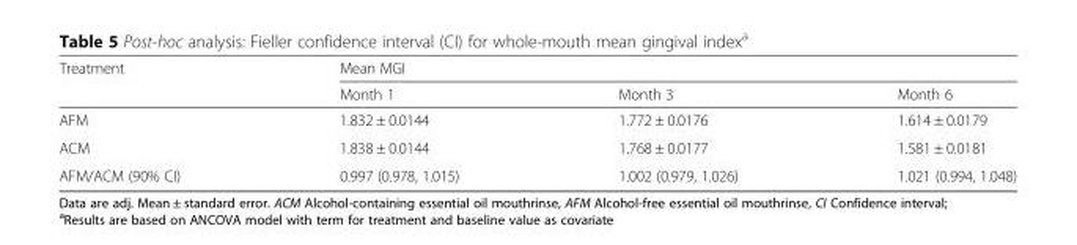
<table><thead><tr><td rowspan="2">Treatment</td><td colspan="3">Mean MGI</td></tr><tr><td>Month 1</td><td>Month 3</td><td>Month 6</td></tr></thead><tbody><tr><td>AFM</td><td>1.832 ± 0.0144</td><td>1.772 ± 0.0176</td><td>1.614 ± 0.0179</td></tr><tr><td>ACM</td><td>1.838 ± 0.0144</td><td>1.768 ± 0.0177</td><td>1.581 ± 0.0181</td></tr><tr><td>AFM/ACM (90% CI)</td><td>0.997 (0.978, 1.015)</td><td>1.002 (0.979, 1.026)</td><td>1.021 (0.994, 1.048)</td></tr></tbody></table>